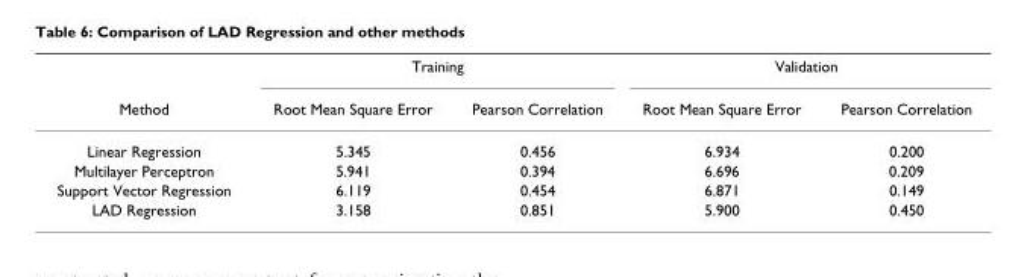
<table><thead><tr><td rowspan="2">Method</td><td colspan="2">Training</td><td colspan="2">Validation</td></tr><tr><td>Root Mean Square Error</td><td>Pearson Correlation</td><td>Root Mean Square Error</td><td>Pearson Correlation</td></tr></thead><tbody><tr><td>Linear Regression</td><td>5.345</td><td>0.456</td><td>6.934</td><td>0.200</td></tr><tr><td>Multilayer Perceptron</td><td>5.941</td><td>0.394</td><td>6.696</td><td>0.209</td></tr><tr><td>Support Vector Regression</td><td>6.119</td><td>0.454</td><td>6.871</td><td>0.149</td></tr><tr><td>LAD Regression</td><td>3.158</td><td>0.851</td><td>5.900</td><td>0.450</td></tr></tbody></table>